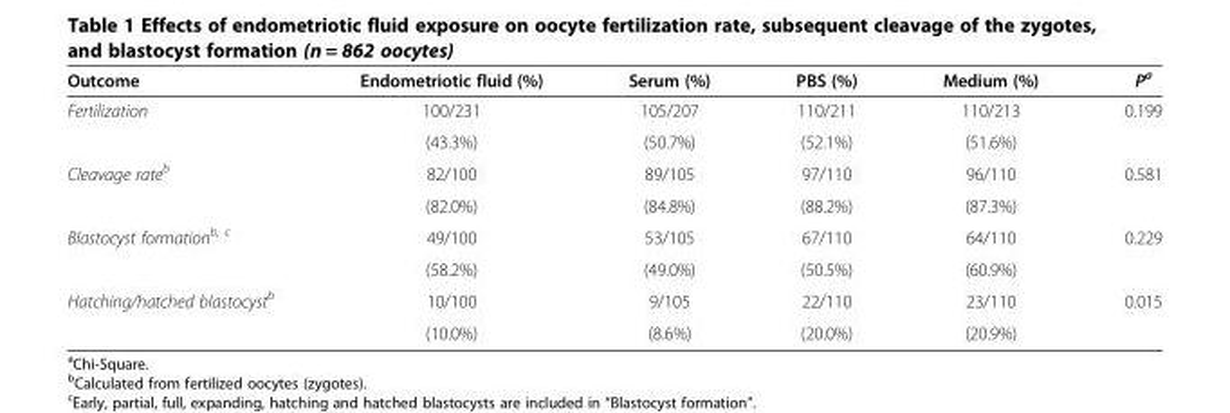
<table><thead><tr><td>Outcome</td><td>Endometriotic fluid (%)</td><td>Serum (%)</td><td>PBS (%)</td><td>Medium (%)</td><td>P<sup>a</sup></td></tr></thead><tbody><tr><td rowspan="2">Fertilization</td><td>100/231</td><td>105/207</td><td>110/211</td><td>110/213</td><td>0.199</td></tr><tr><td>(43.3%)</td><td>(50.7%)</td><td>(52.1%)</td><td>(51.6%)</td><td></td></tr><tr><td rowspan="2">Cleavage rate<sup>b</sup></td><td>82/100</td><td>89/105</td><td>97/110</td><td>96/110</td><td>0.581</td></tr><tr><td>(82.0%)</td><td>(84.8%)</td><td>(88.2%)</td><td>(87.3%)</td><td></td></tr><tr><td rowspan="2">Blastocyst formation<sup>b, c</sup></td><td>49/100</td><td>53/105</td><td>67/110</td><td>64/110</td><td>0.229</td></tr><tr><td>(58.2%)</td><td>(49.0%)</td><td>(50.5%)</td><td>(60.9%)</td><td></td></tr><tr><td rowspan="2">Hatching/hatched blastocyst<sup>b</sup></td><td>10/100</td><td>9/105</td><td>22/110</td><td>23/110</td><td>0.015</td></tr><tr><td>(10.0%)</td><td>(8.6%)</td><td>(20.0%)</td><td>(20.9%)</td><td></td></tr></tbody></table>